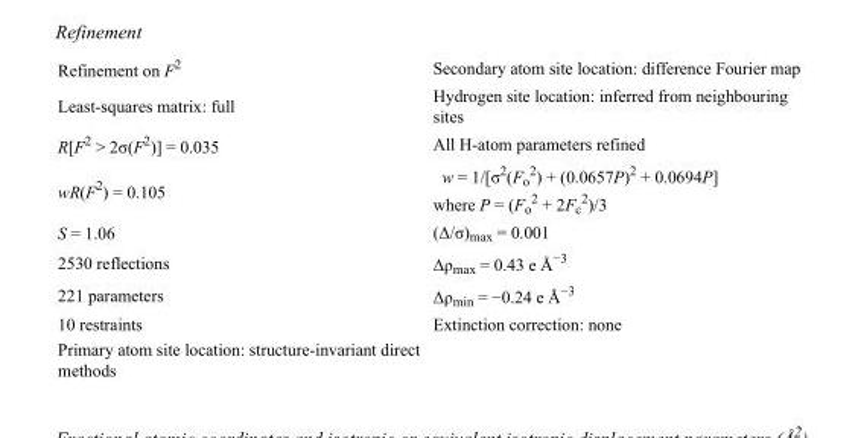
<table><tbody><tr><td>Refinement on F<sup>2</sup></td><td>Secondary atom site location: difference Fourier map</td></tr><tr><td>Least-squares matrix: full</td><td>Hydrogen site location: inferred from neighbouring sites</td></tr><tr><td>R[F<sup>2</sup> &gt; 2σ(F<sup>2</sup>)] = 0.035</td><td>All H-atom parameters refined</td></tr><tr><td>wR(F<sup>2</sup>) = 0.105</td><td>w = 1/[σ<sup>2</sup>(F<sub>o</sub> <sup>2</sup>) + (0.0657P)<sup>2</sup> + 0.0694P] where P = (F<sub>o</sub> <sup>2</sup> + 2F<sub>c</sub> <sup>2</sup>)/3</td></tr><tr><td>S = 1.06</td><td>(Δ/σ)<sub>max</sub> = 0.001</td></tr><tr><td>2530 reflections</td><td>Δρ<sub>max</sub> = 0.43 e Å<sup>−3</sup></td></tr><tr><td>221 parameters</td><td>Δρ<sub>min</sub> = −0.24 e Å<sup>−3</sup></td></tr><tr><td>10 restraints</td><td>Extinction correction: none</td></tr><tr><td>Primary atom site location: structure-invariant direct methods</td><td></td></tr></tbody></table>